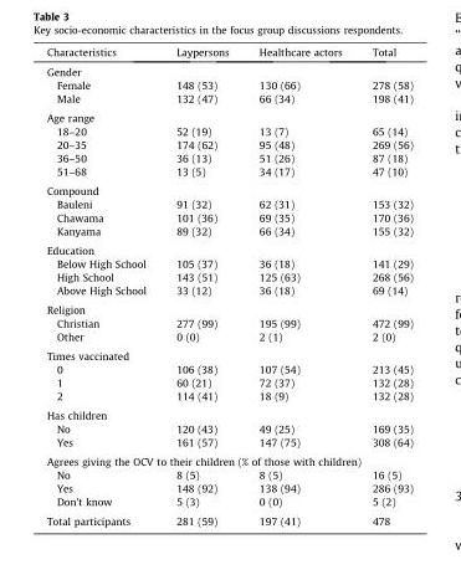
<table><thead><tr><td>Characteristics</td><td>Laypersons</td><td>Healthcare actors</td><td>Total</td></tr></thead><tbody><tr><td colspan="4">Gender</td></tr><tr><td>Female</td><td>148 (53)</td><td>130 (66)</td><td>278 (58)</td></tr><tr><td>Male</td><td>132 (47)</td><td>66 (34)</td><td>198 (41)</td></tr><tr><td colspan="4">Age range</td></tr><tr><td>18–20</td><td>52 (19)</td><td>13 (7)</td><td>65 (14)</td></tr><tr><td>20–35</td><td>174 (62)</td><td>95 (48)</td><td>269 (56)</td></tr><tr><td>36–50</td><td>36 (13)</td><td>51 (26)</td><td>87 (18)</td></tr><tr><td>51–68</td><td>13 (5)</td><td>34 (17)</td><td>47 (10)</td></tr><tr><td colspan="4">Compound</td></tr><tr><td>Bauleni</td><td>91 (32)</td><td>62 (31)</td><td>153 (32)</td></tr><tr><td>Chawama</td><td>101 (36)</td><td>69 (35)</td><td>170 (36)</td></tr><tr><td>Kanyama</td><td>89 (32)</td><td>66 (34)</td><td>155 (32)</td></tr><tr><td colspan="4">Education</td></tr><tr><td>Below High School</td><td>105 (37)</td><td>36 (18)</td><td>141 (29)</td></tr><tr><td>High School</td><td>143 (51)</td><td>125 (63)</td><td>268 (56)</td></tr><tr><td>Above High School</td><td>33 (12)</td><td>36 (18)</td><td>69 (14)</td></tr><tr><td colspan="4">Religion</td></tr><tr><td>Christian</td><td>277 (99)</td><td>195 (99)</td><td>472 (99)</td></tr><tr><td>Other</td><td>0 (0)</td><td>2 (1)</td><td>2 (0)</td></tr><tr><td colspan="4">Times vaccinated</td></tr><tr><td>0</td><td>106 (38)</td><td>107 (54)</td><td>213 (45)</td></tr><tr><td>1</td><td>60 (21)</td><td>72 (37)</td><td>132 (28)</td></tr><tr><td>2</td><td>114 (41)</td><td>18 (9)</td><td>132 (28)</td></tr><tr><td colspan="4">Has children</td></tr><tr><td>No</td><td>120 (43)</td><td>49 (25)</td><td>169 (35)</td></tr><tr><td>Yes</td><td>161 (57)</td><td>147 (75)</td><td>308 (64)</td></tr><tr><td colspan="4">Agrees giving the OCV to their children (% of those with children)</td></tr><tr><td>No</td><td>8 (5)</td><td>8 (5)</td><td>16 (5)</td></tr><tr><td>Yes</td><td>148 (92)</td><td>138 (94)</td><td>286 (93)</td></tr><tr><td>Don’t know</td><td>5 (3)</td><td>0 (0)</td><td>5 (2)</td></tr><tr><td>Total participants</td><td>281 (59)</td><td>197 (41)</td><td>478</td></tr></tbody></table>